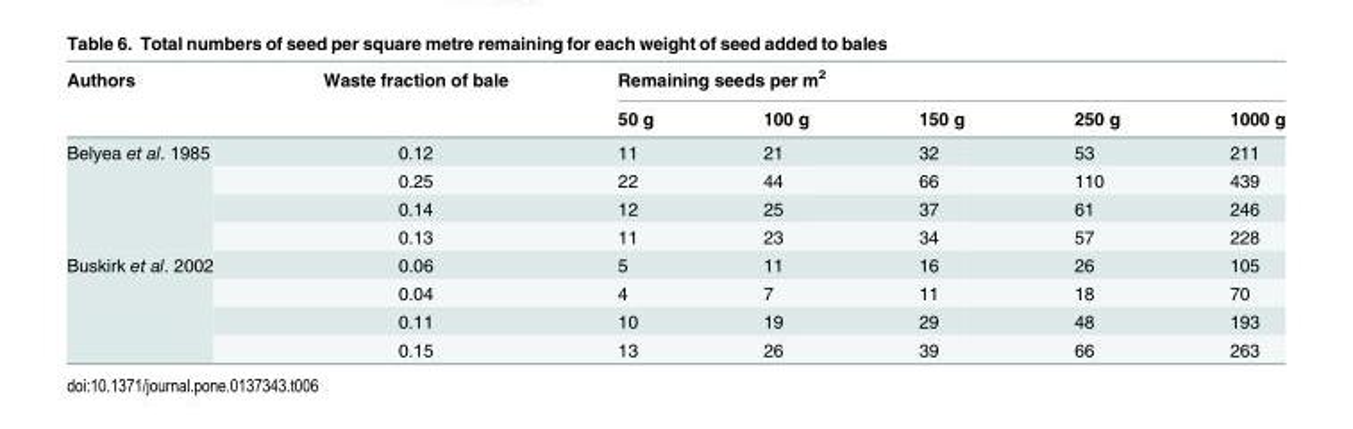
<table><thead><tr><td rowspan="2">Authors</td><td rowspan="2">Waste fraction of bale</td><td colspan="5">Remaining seeds per m<sup>2</sup></td></tr><tr><td>50 g</td><td>100 g</td><td>150 g</td><td>250 g</td><td>1000 g</td></tr></thead><tbody><tr><td rowspan="4">Belyea et al. 1985</td><td>0.12</td><td>11</td><td>21</td><td>32</td><td>53</td><td>211</td></tr><tr><td>0.25</td><td>22</td><td>44</td><td>66</td><td>110</td><td>439</td></tr><tr><td>0.14</td><td>12</td><td>25</td><td>37</td><td>61</td><td>246</td></tr><tr><td>0.13</td><td>11</td><td>23</td><td>34</td><td>57</td><td>228</td></tr><tr><td rowspan="4">Buskirk et al. 2002</td><td>0.06</td><td>5</td><td>11</td><td>16</td><td>26</td><td>105</td></tr><tr><td>0.04</td><td>4</td><td>7</td><td>11</td><td>18</td><td>70</td></tr><tr><td>0.11</td><td>10</td><td>19</td><td>29</td><td>48</td><td>193</td></tr><tr><td>0.15</td><td>13</td><td>26</td><td>39</td><td>66</td><td>263</td></tr></tbody></table>